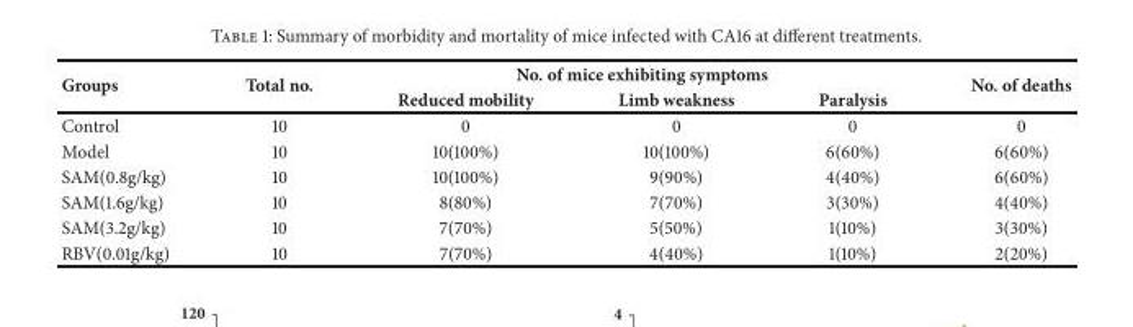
<table><thead><tr><td rowspan="2">Groups</td><td rowspan="2">Total no.</td><td colspan="3">No. of mice exhibiting symptoms</td><td rowspan="2">No. of deaths</td></tr><tr><td>Reduced mobility</td><td>Limb weakness</td><td>Paralysis</td></tr></thead><tbody><tr><td>Control</td><td>10</td><td>0</td><td>0</td><td>0</td><td>0</td></tr><tr><td>Model</td><td>10</td><td>10(100%)</td><td>10(100%)</td><td>6(60%)</td><td>6(60%)</td></tr><tr><td>SAM(0.8g/kg)</td><td>10</td><td>10(100%)</td><td>9(90%)</td><td>4(40%)</td><td>6(60%)</td></tr><tr><td>SAM(1.6g/kg)</td><td>10</td><td>8(80%)</td><td>7(70%)</td><td>3(30%)</td><td>4(40%)</td></tr><tr><td>SAM(3.2g/kg)</td><td>10</td><td>7(70%)</td><td>5(50%)</td><td>1(10%)</td><td>3(30%)</td></tr><tr><td>RBV(0.01g/kg)</td><td>10</td><td>7(70%)</td><td>4(40%)</td><td>1(10%)</td><td>2(20%)</td></tr></tbody></table>